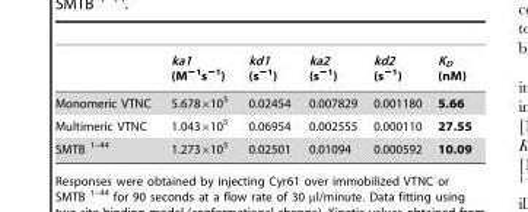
<table><thead><tr><td></td><td>ka1 (M<sup>−1</sup>s<sup>−1</sup>)</td><td>kd1 (s<sup>−1</sup>)</td><td>ka2 (s<sup>−1</sup>)</td><td>kd2 (s<sup>−1</sup>)</td><td>K<sub>D</sub> (nM)</td></tr></thead><tbody><tr><td>Monomeric VTNC</td><td>5.678×10<sup>5</sup></td><td>0.02454</td><td>0.007829</td><td>0.001180</td><td>5.66</td></tr><tr><td>Multimeric VTNC</td><td>1.043×10<sup>5</sup></td><td>0.06954</td><td>0.002555</td><td>0.000110</td><td>27.55</td></tr><tr><td>SMTB <sup>1–44</sup></td><td>1.273×10<sup>5</sup></td><td>0.02501</td><td>0.01094</td><td>0.000592</td><td>10.09</td></tr></tbody></table>